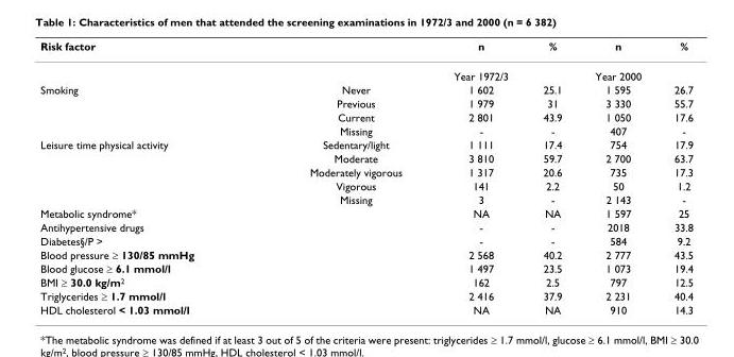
<table><thead><tr><td>Risk factor</td><td></td><td>n</td><td>%</td><td>n</td><td>%</td></tr></thead><tbody><tr><td></td><td></td><td>Year 1972/3</td><td></td><td>Year 2000</td><td></td></tr><tr><td rowspan="4">Smoking</td><td>Never</td><td>1 602</td><td>25.1</td><td>1 595</td><td>26.7</td></tr><tr><td>Previous</td><td>1 979</td><td>31</td><td>3 330</td><td>55.7</td></tr><tr><td>Current</td><td>2 801</td><td>43.9</td><td>1 050</td><td>17.6</td></tr><tr><td>Missing</td><td>-</td><td>-</td><td>407</td><td>-</td></tr><tr><td rowspan="5">Leisure time physical activity</td><td>Sedentary/light</td><td>1 111</td><td>17.4</td><td>754</td><td>17.9</td></tr><tr><td>Moderate</td><td>3 810</td><td>59.7</td><td>2 700</td><td>63.7</td></tr><tr><td>Moderately vigorous</td><td>1 317</td><td>20.6</td><td>735</td><td>17.3</td></tr><tr><td>Vigorous</td><td>141</td><td>2.2</td><td>50</td><td>1.2</td></tr><tr><td>Missing</td><td>3</td><td>-</td><td>2 143</td><td>-</td></tr><tr><td>Metabolic syndrome*</td><td></td><td>NA</td><td>NA</td><td>1 597</td><td>25</td></tr><tr><td>Antihypertensive drugs</td><td></td><td>-</td><td>-</td><td>2018</td><td>33.8</td></tr><tr><td>Diabetes§/P &gt;</td><td></td><td>-</td><td>-</td><td>584</td><td>9.2</td></tr><tr><td>Blood pressure ≥ 130/85 mmHg</td><td></td><td>2 568</td><td>40.2</td><td>2 777</td><td>43.5</td></tr><tr><td>Blood glucose ≥ 6.1 mmol/l</td><td></td><td>1 497</td><td>23.5</td><td>1 073</td><td>19.4</td></tr><tr><td>BMI ≥ 30.0 kg/m<sup>2</sup></td><td></td><td>162</td><td>2.5</td><td>797</td><td>12.5</td></tr><tr><td>Triglycerides ≥ 1.7 mmol/l</td><td></td><td>2 416</td><td>37.9</td><td>2 231</td><td>40.4</td></tr><tr><td>HDL cholesterol &lt; 1.03 mmol/l</td><td></td><td>NA</td><td>NA</td><td>910</td><td>14.3</td></tr></tbody></table>